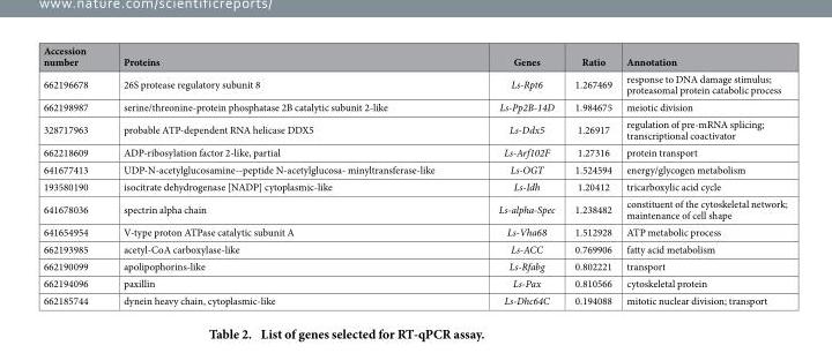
<table><thead><tr><td>Accession number</td><td>Proteins</td><td>Genes</td><td>Ratio</td><td>Annotation</td></tr></thead><tbody><tr><td>662196678</td><td>26S protease regulatory subunit 8</td><td>Ls-Rpt6</td><td>1.267469</td><td>response to DNA damage stimulus; proteasomal protein catabolic process</td></tr><tr><td>662198987</td><td>serine/threonine-protein phosphatase 2B catalytic subunit 2-like</td><td>Ls-Pp2B-14D</td><td>1.984675</td><td>meiotic division</td></tr><tr><td>328717963</td><td>probable ATP-dependent RNA helicase DDX5</td><td>Ls-Ddx5</td><td>1.26917</td><td>regulation of pre-mRNA splicing; transcriptional coactivator</td></tr><tr><td>662218609</td><td>ADP-ribosylation factor 2-like, partial</td><td>Ls-Arf102F</td><td>1.27316</td><td>protein transport</td></tr><tr><td>641677413</td><td>UDP-N-acetylglucosamine--peptide N-acetylglucosa- minyltransferase-like</td><td>Ls-OGT</td><td>1.524594</td><td>energy/glycogen metabolism</td></tr><tr><td>193580190</td><td>isocitrate dehydrogenase [NADP] cytoplasmic-like</td><td>Ls-Idh</td><td>1.20412</td><td>tricarboxylic acid cycle</td></tr><tr><td>641678036</td><td>spectrin alpha chain</td><td>Ls-alpha-Spec</td><td>1.238482</td><td>constituent of the cytoskeletal network; maintenance of cell shape</td></tr><tr><td>641654954</td><td>V-type proton ATPase catalytic subunit A</td><td>Ls-Vha68</td><td>1.512928</td><td>ATP metabolic process</td></tr><tr><td>662193985</td><td>acetyl-CoA carboxylase-like</td><td>Ls-ACC</td><td>0.769906</td><td>fatty acid metabolism</td></tr><tr><td>662190099</td><td>apolipophorins-like</td><td>Ls-Rfabg</td><td>0.802221</td><td>transport</td></tr><tr><td>662194096</td><td>paxillin</td><td>Ls-Pax</td><td>0.810566</td><td>cytoskeletal protein</td></tr><tr><td>662185744</td><td>dynein heavy chain, cytoplasmic-like</td><td>Ls-Dhc64C</td><td>0.194088</td><td>mitotic nuclear division; transport</td></tr></tbody></table>